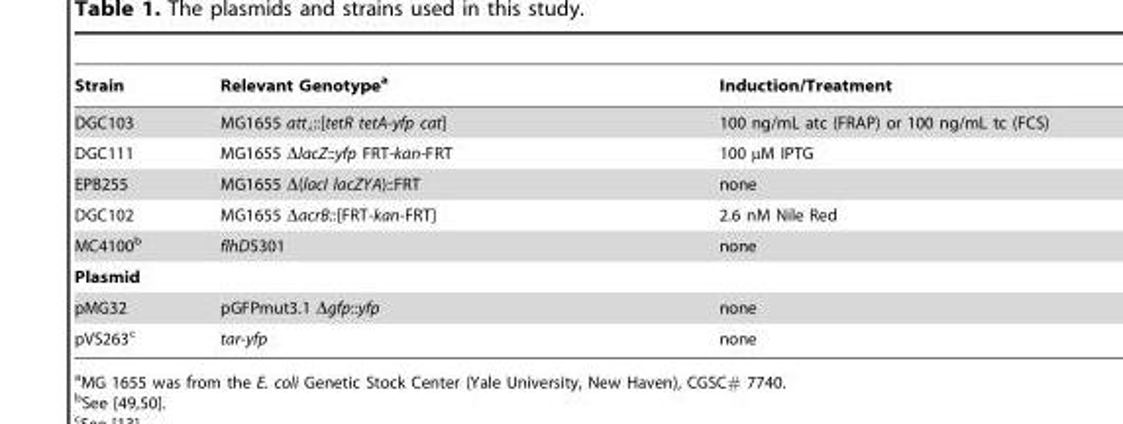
<table><thead><tr><td>Strain</td><td>Relevant Genotype<sup>a</sup></td><td>Induction/Treatment</td></tr></thead><tbody><tr><td>DGC103</td><td>MG1655 att<sub>λ</sub>::[tetR tetA-yfp cat]</td><td>100 ng/mL atc (FRAP) or 100 ng/mL tc (FCS)</td></tr><tr><td>DGC111</td><td>MG1655 ΔlacZ::yfp FRT-kan-FRT</td><td>100 µM IPTG</td></tr><tr><td>EPB255</td><td>MG1655 Δ(lacI lacZYA)::FRT</td><td>none</td></tr><tr><td>DGC102</td><td>MG1655 ΔacrB::[FRT-kan-FRT]</td><td>2.6 nM Nile Red</td></tr><tr><td>MC4100<sup>b</sup></td><td>flhD5301</td><td>none</td></tr><tr><td colspan="3">Plasmid</td></tr><tr><td>pMG32</td><td>pGFPmut3.1 Δgfp::yfp</td><td>none</td></tr><tr><td>pVS263<sup>c</sup></td><td>tar-yfp</td><td>none</td></tr></tbody></table>